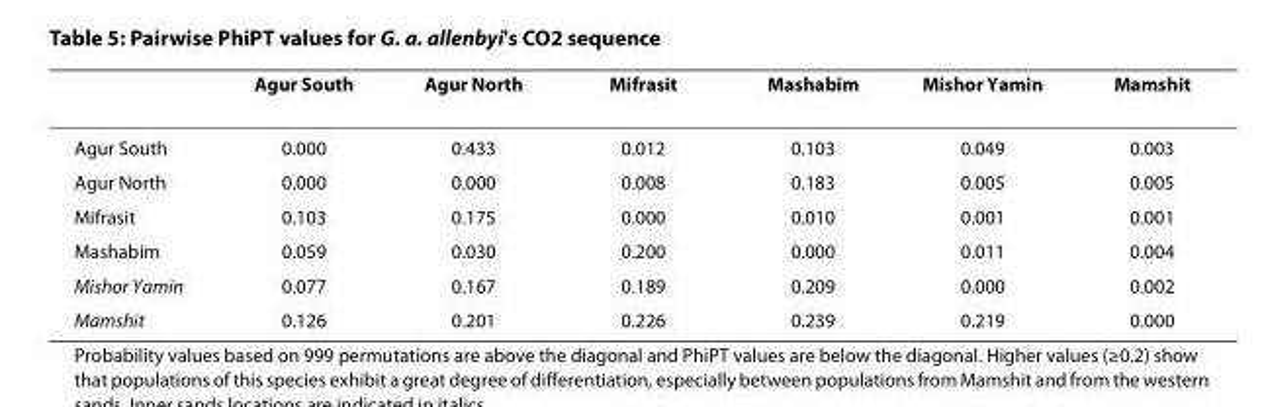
<table><thead><tr><td></td><td>Agur South</td><td>Agur North</td><td>Mifrasit</td><td>Mashabim</td><td>Mishor Yamin</td><td>Mamshit</td></tr></thead><tbody><tr><td>Agur South</td><td>0.000</td><td>0.433</td><td>0.012</td><td>0.103</td><td>0.049</td><td>0.003</td></tr><tr><td>Agur North</td><td>0.000</td><td>0.000</td><td>0.008</td><td>0.183</td><td>0.005</td><td>0.005</td></tr><tr><td>Mifrasit</td><td>0.103</td><td>0.175</td><td>0.000</td><td>0.010</td><td>0.001</td><td>0.001</td></tr><tr><td>Mashabim</td><td>0.059</td><td>0.030</td><td>0.200</td><td>0.000</td><td>0.011</td><td>0.004</td></tr><tr><td>Mishor Yamin</td><td>0.077</td><td>0.167</td><td>0.189</td><td>0.209</td><td>0.000</td><td>0.002</td></tr><tr><td>Mamshit</td><td>0.126</td><td>0.201</td><td>0.226</td><td>0.239</td><td>0.219</td><td>0.000</td></tr></tbody></table>